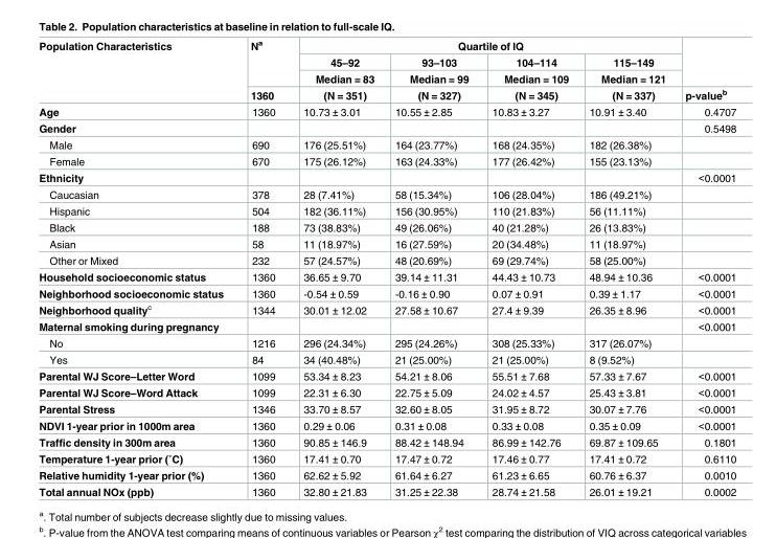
<table><thead><tr><td rowspan="4">Population Characteristics</td><td rowspan="4">N<sup>a</sup> 1360</td><td colspan="4">Quartile of IQ</td><td rowspan="4">p-value<sup>b</sup></td></tr><tr><td rowspan="3">45–92 Median = 83 (N = 351)</td><td rowspan="3">93–103 Median = 99 (N = 327)</td><td rowspan="3">104–114 Median = 109 (N = 345)</td><td rowspan="3">115–149 Median = 121 (N = 337)</td></tr><tr></tr><tr></tr></thead><tbody><tr><td>Age</td><td>1360</td><td>10.73 ± 3.01</td><td>10.55 ± 2.85</td><td>10.83 ± 3.27</td><td>10.91 ± 3.40</td><td>0.4707</td></tr><tr><td>Gender</td><td></td><td></td><td></td><td></td><td></td><td>0.5498</td></tr><tr><td>Male</td><td>690</td><td>176 (25.51%)</td><td>164 (23.77%)</td><td>168 (24.35%)</td><td>182 (26.38%)</td><td></td></tr><tr><td>Female</td><td>670</td><td>175 (26.12%)</td><td>163 (24.33%)</td><td>177 (26.42%)</td><td>155 (23.13%)</td><td></td></tr><tr><td>Ethnicity</td><td></td><td></td><td></td><td></td><td></td><td>&lt;0.0001</td></tr><tr><td>Caucasian</td><td>378</td><td>28 (7.41%)</td><td>58 (15.34%)</td><td>106 (28.04%)</td><td>186 (49.21%)</td><td></td></tr><tr><td>Hispanic</td><td>504</td><td>182 (36.11%)</td><td>156 (30.95%)</td><td>110 (21.83%)</td><td>56 (11.11%)</td><td></td></tr><tr><td>Black</td><td>188</td><td>73 (38.83%)</td><td>49 (26.06%)</td><td>40 (21.28%)</td><td>26 (13.83%)</td><td></td></tr><tr><td>Asian</td><td>58</td><td>11 (18.97%)</td><td>16 (27.59%)</td><td>20 (34.48%)</td><td>11 (18.97%)</td><td></td></tr><tr><td>Other or Mixed</td><td>232</td><td>57 (24.57%)</td><td>48 (20.69%)</td><td>69 (29.74%)</td><td>58 (25.00%)</td><td></td></tr><tr><td>Household socioeconomic status</td><td>1360</td><td>36.65 ± 9.70</td><td>39.14 ± 11.31</td><td>44.43 ± 10.73</td><td>48.94 ± 10.36</td><td>&lt;0.0001</td></tr><tr><td>Neighborhood socioeconomic status</td><td>1360</td><td>-0.54 ± 0.59</td><td>-0.16 ± 0.90</td><td>0.07 ± 0.91</td><td>0.39 ± 1.17</td><td>&lt;0.0001</td></tr><tr><td>Neighborhood quality<sup>c</sup></td><td>1344</td><td>30.01 ± 12.02</td><td>27.58 ± 10.67</td><td>27.4 ± 9.39</td><td>26.35 ± 8.96</td><td>&lt;0.0001</td></tr><tr><td>Maternal smoking during pregnancy</td><td></td><td></td><td></td><td></td><td></td><td>&lt;0.0001</td></tr><tr><td>No</td><td>1216</td><td>296 (24.34%)</td><td>295 (24.26%)</td><td>308 (25.33%)</td><td>317 (26.07%)</td><td></td></tr><tr><td>Yes</td><td>84</td><td>34 (40.48%)</td><td>21 (25.00%)</td><td>21 (25.00%)</td><td>8 (9.52%)</td><td></td></tr><tr><td>Parental WJ Score–Letter Word</td><td>1099</td><td>53.34 ± 8.23</td><td>54.21 ± 8.06</td><td>55.51 ± 7.68</td><td>57.33 ± 7.67</td><td>&lt;0.0001</td></tr><tr><td>Parental WJ Score–Word Attack</td><td>1099</td><td>22.31 ± 6.30</td><td>22.75 ± 5.09</td><td>24.02 ± 4.57</td><td>25.43 ± 3.81</td><td>&lt;0.0001</td></tr><tr><td>Parental Stress</td><td>1346</td><td>33.70 ± 8.57</td><td>32.60 ± 8.05</td><td>31.95 ± 8.72</td><td>30.07 ± 7.76</td><td>&lt;0.0001</td></tr><tr><td>NDVI 1-year prior in 1000m area</td><td>1360</td><td>0.29 ± 0.06</td><td>0.31 ± 0.08</td><td>0.33 ± 0.08</td><td>0.35 ± 0.09</td><td>&lt;0.0001</td></tr><tr><td>Traffic density in 300m area</td><td>1360</td><td>90.85 ± 146.9</td><td>88.42 ± 148.94</td><td>86.99 ± 142.76</td><td>69.87 ± 109.65</td><td>0.1801</td></tr><tr><td>Temperature 1-year prior (˚C)</td><td>1360</td><td>17.41 ± 0.70</td><td>17.47 ± 0.72</td><td>17.46 ± 0.77</td><td>17.41 ± 0.72</td><td>0.6110</td></tr><tr><td>Relative humidity 1-year prior (%)</td><td>1360</td><td>62.62 ± 5.92</td><td>61.64 ± 6.27</td><td>61.23 ± 6.65</td><td>60.76 ± 6.37</td><td>0.0010</td></tr><tr><td>Total annual NOx (ppb)</td><td>1360</td><td>32.80 ± 21.83</td><td>31.25 ± 22.38</td><td>28.74 ± 21.58</td><td>26.01 ± 19.21</td><td>0.0002</td></tr></tbody></table>